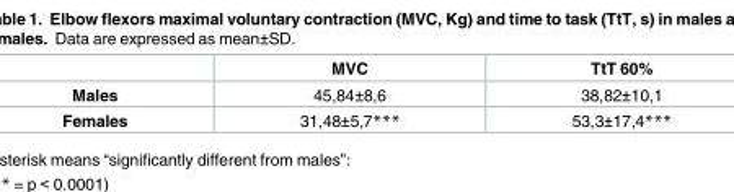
<table><thead><tr><td></td><td>MVC</td><td>TtT 60%</td></tr></thead><tbody><tr><td>Males</td><td>45,84±8,6</td><td>38,82±10,1</td></tr><tr><td>Females</td><td>31,48±5,7***</td><td>53,3±17,4***</td></tr></tbody></table>